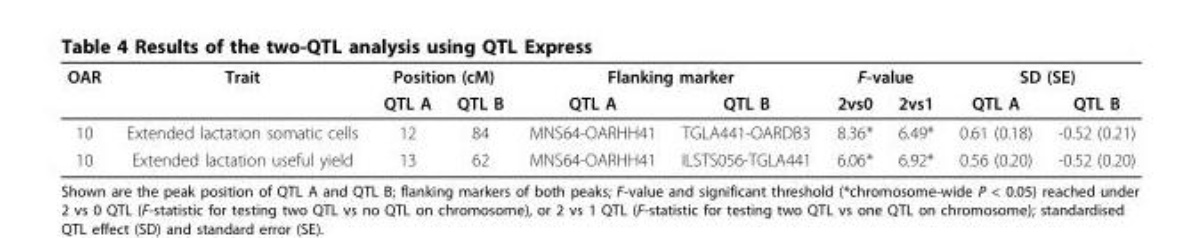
<table><thead><tr><td rowspan="2">OAR</td><td rowspan="2">Trait</td><td colspan="2">Position (cM)</td><td colspan="2">Flanking marker</td><td colspan="2">F-value</td><td colspan="2">SD (SE)</td></tr><tr><td>QTL A</td><td>QTL B</td><td>QTL A</td><td>QTL B</td><td>2vs0</td><td>2vs1</td><td>QTL A</td><td>QTL B</td></tr></thead><tbody><tr><td>10</td><td>Extended lactation somatic cells</td><td>12</td><td>84</td><td>MNS64-OARHH41</td><td>TGLA441-OARDB3</td><td>8.36*</td><td>6.49*</td><td>0.61 (0.18)</td><td>-0.52 (0.21)</td></tr><tr><td>10</td><td>Extended lactation useful yield</td><td>13</td><td>62</td><td>MNS64-OARHH41</td><td>ILSTS056-TGLA441</td><td>6.06*</td><td>6.92*</td><td>0.56 (0.20)</td><td>-0.52 (0.20)</td></tr></tbody></table>